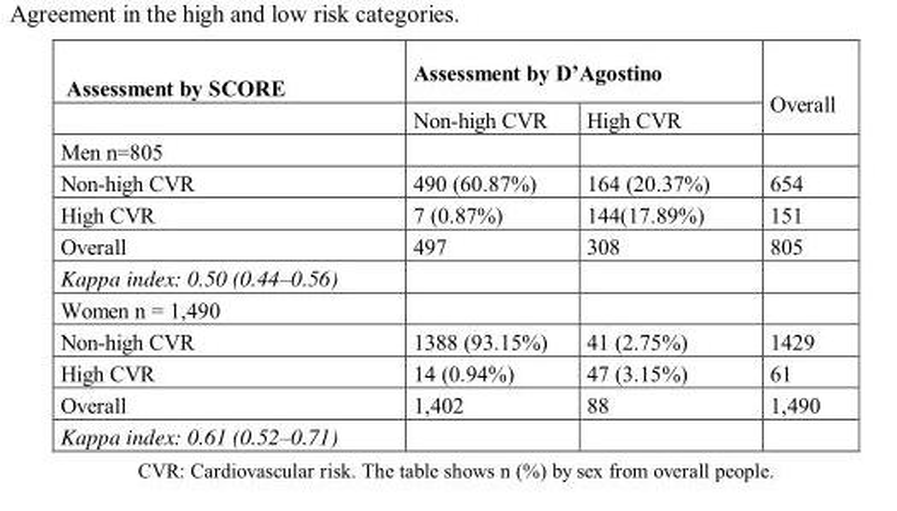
<table><thead><tr><td rowspan="2">Assessment by SCORE</td><td colspan="2">Assessment by D’Agostino</td><td rowspan="2">Overall</td></tr><tr><td>Non-high CVR</td><td>High CVR</td></tr></thead><tbody><tr><td colspan="4">Men n=805</td></tr><tr><td>Non-high CVR</td><td>490 (60.87%)</td><td>164 (20.37%)</td><td>654</td></tr><tr><td>High CVR</td><td>7 (0.87%)</td><td>144(17.89%)</td><td>151</td></tr><tr><td>Overall</td><td>497</td><td>308</td><td>805</td></tr><tr><td colspan="4">Kappa index: 0.50 (0.44–0.56)</td></tr><tr><td colspan="4">Women n = 1,490</td></tr><tr><td>Non-high CVR</td><td>1388 (93.15%)</td><td>41 (2.75%)</td><td>1429</td></tr><tr><td>High CVR</td><td>14 (0.94%)</td><td>47 (3.15%)</td><td>61</td></tr><tr><td>Overall</td><td>1,402</td><td>88</td><td>1,490</td></tr><tr><td>Kappa index: 0.61 (0.52–0.71)</td><td></td><td></td><td></td></tr></tbody></table>